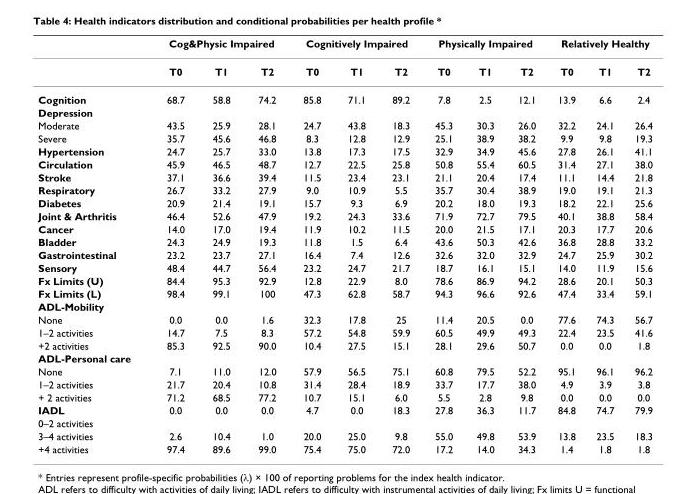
<table><thead><tr><td rowspan="2"></td><td colspan="3">Cog&amp;Physic Impaired</td><td colspan="3">Cognitively Impaired</td><td colspan="3">Physically Impaired</td><td colspan="3">Relatively Healthy</td></tr><tr><td>T0</td><td>T1</td><td>T2</td><td>T0</td><td>T1</td><td>T2</td><td>T0</td><td>T1</td><td>T2</td><td>T0</td><td>T1</td><td>T2</td></tr></thead><tbody><tr><td>Cognition</td><td>68.7</td><td>58.8</td><td>74.2</td><td>85.8</td><td>71.1</td><td>89.2</td><td>7.8</td><td>2.5</td><td>12.1</td><td>13.9</td><td>6.6</td><td>2.4</td></tr><tr><td colspan="13">Depression</td></tr><tr><td>Moderate</td><td>43.5</td><td>25.9</td><td>28.1</td><td>24.7</td><td>43.8</td><td>18.3</td><td>45.3</td><td>30.3</td><td>26.0</td><td>32.2</td><td>24.1</td><td>26.4</td></tr><tr><td>Severe</td><td>35.7</td><td>45.6</td><td>46.8</td><td>8.3</td><td>12.8</td><td>12.9</td><td>25.1</td><td>38.9</td><td>38.2</td><td>9.9</td><td>9.8</td><td>19.3</td></tr><tr><td>Hypertension</td><td>24.7</td><td>25.7</td><td>33.0</td><td>13.8</td><td>17.3</td><td>17.5</td><td>32.9</td><td>34.9</td><td>45.6</td><td>27.8</td><td>26.1</td><td>41.1</td></tr><tr><td>Circulation</td><td>45.9</td><td>46.5</td><td>48.7</td><td>12.7</td><td>22.5</td><td>25.8</td><td>50.8</td><td>55.4</td><td>60.5</td><td>31.4</td><td>27.1</td><td>38.0</td></tr><tr><td>Stroke</td><td>37.1</td><td>36.6</td><td>39.4</td><td>11.5</td><td>23.4</td><td>23.1</td><td>21.1</td><td>20.4</td><td>17.4</td><td>11.1</td><td>14.4</td><td>21.8</td></tr><tr><td>Respiratory</td><td>26.7</td><td>33.2</td><td>27.9</td><td>9.0</td><td>10.9</td><td>5.5</td><td>35.7</td><td>30.4</td><td>38.9</td><td>19.0</td><td>19.1</td><td>21.3</td></tr><tr><td>Diabetes</td><td>20.9</td><td>21.4</td><td>19.1</td><td>15.7</td><td>9.3</td><td>6.9</td><td>20.2</td><td>18.0</td><td>19.3</td><td>18.2</td><td>22.1</td><td>25.6</td></tr><tr><td>Joint &amp; Arthritis</td><td>46.4</td><td>52.6</td><td>47.9</td><td>19.2</td><td>24.3</td><td>33.6</td><td>71.9</td><td>72.7</td><td>79.5</td><td>40.1</td><td>38.8</td><td>58.4</td></tr><tr><td>Cancer</td><td>14.0</td><td>17.0</td><td>19.4</td><td>11.9</td><td>10.2</td><td>11.5</td><td>20.0</td><td>21.5</td><td>17.1</td><td>20.3</td><td>17.7</td><td>20.6</td></tr><tr><td>Bladder</td><td>24.3</td><td>24.9</td><td>19.3</td><td>11.8</td><td>1.5</td><td>6.4</td><td>43.6</td><td>50.3</td><td>42.6</td><td>36.8</td><td>28.8</td><td>33.2</td></tr><tr><td>Gastrointestinal</td><td>23.2</td><td>23.7</td><td>27.1</td><td>16.4</td><td>7.4</td><td>12.6</td><td>32.6</td><td>32.0</td><td>32.9</td><td>24.7</td><td>25.9</td><td>30.2</td></tr><tr><td>Sensory</td><td>48.4</td><td>44.7</td><td>56.4</td><td>23.2</td><td>24.7</td><td>21.7</td><td>18.7</td><td>16.1</td><td>15.1</td><td>14.0</td><td>11.9</td><td>15.6</td></tr><tr><td>Fx Limits (U)</td><td>84.4</td><td>95.3</td><td>92.9</td><td>12.8</td><td>22.9</td><td>8.0</td><td>78.6</td><td>86.9</td><td>94.2</td><td>28.6</td><td>20.1</td><td>50.3</td></tr><tr><td>Fx Limits (L)</td><td>98.4</td><td>99.1</td><td>100</td><td>47.3</td><td>62.8</td><td>58.7</td><td>94.3</td><td>96.6</td><td>92.6</td><td>47.4</td><td>33.4</td><td>59.1</td></tr><tr><td colspan="13">ADL-Mobility</td></tr><tr><td>None</td><td>0.0</td><td>0.0</td><td>1.6</td><td>32.3</td><td>17.8</td><td>25</td><td>11.4</td><td>20.5</td><td>0.0</td><td>77.6</td><td>74.3</td><td>56.7</td></tr><tr><td>1–2 activities</td><td>14.7</td><td>7.5</td><td>8.3</td><td>57.2</td><td>54.8</td><td>59.9</td><td>60.5</td><td>49.9</td><td>49.3</td><td>22.4</td><td>23.5</td><td>41.6</td></tr><tr><td>+2 activities</td><td>85.3</td><td>92.5</td><td>90.0</td><td>10.4</td><td>27.5</td><td>15.1</td><td>28.1</td><td>29.6</td><td>50.7</td><td>0.0</td><td>0.0</td><td>1.8</td></tr><tr><td colspan="13">ADL-Personal care</td></tr><tr><td>None</td><td>7.1</td><td>11.0</td><td>12.0</td><td>57.9</td><td>56.5</td><td>75.1</td><td>60.8</td><td>79.5</td><td>52.2</td><td>95.1</td><td>96.1</td><td>96.2</td></tr><tr><td>1–2 activities</td><td>21.7</td><td>20.4</td><td>10.8</td><td>31.4</td><td>28.4</td><td>18.9</td><td>33.7</td><td>17.7</td><td>38.0</td><td>4.9</td><td>3.9</td><td>3.8</td></tr><tr><td>+ 2 activities</td><td>71.2</td><td>68.5</td><td>77.2</td><td>10.7</td><td>15.1</td><td>6.0</td><td>5.5</td><td>2.8</td><td>9.8</td><td>0.0</td><td>0.0</td><td>0.0</td></tr><tr><td>IADL</td><td>0.0</td><td>0.0</td><td>0.0</td><td>4.7</td><td>0.0</td><td>18.3</td><td>27.8</td><td>36.3</td><td>11.7</td><td>84.8</td><td>74.7</td><td>79.9</td></tr><tr><td colspan="13">0–2 activities</td></tr><tr><td>3–4 activities</td><td>2.6</td><td>10.4</td><td>1.0</td><td>20.0</td><td>25.0</td><td>9.8</td><td>55.0</td><td>49.8</td><td>53.9</td><td>13.8</td><td>23.5</td><td>18.3</td></tr><tr><td>+4 activities</td><td>97.4</td><td>89.6</td><td>99.0</td><td>75.4</td><td>75.0</td><td>72.0</td><td>17.2</td><td>14.0</td><td>34.3</td><td>1.4</td><td>1.8</td><td>1.8</td></tr></tbody></table>